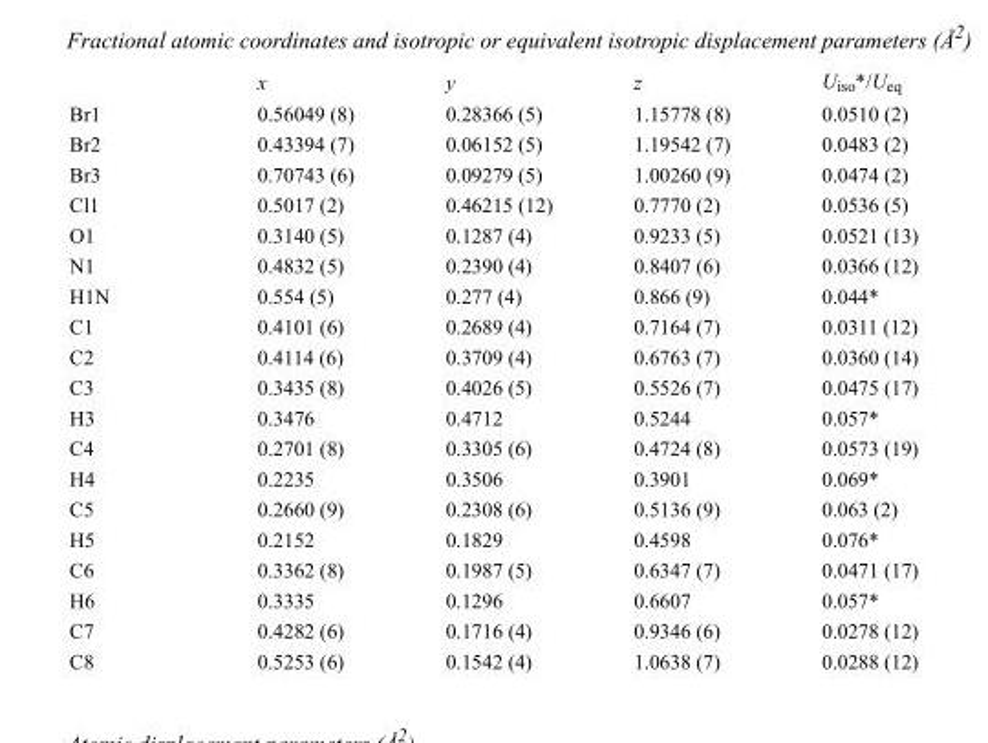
<table><thead><tr><td></td><td>x</td><td>y</td><td>z</td><td>U<sub>iso</sub>*/U<sub>eq</sub></td></tr></thead><tbody><tr><td>Br1</td><td>0.56049 (8)</td><td>0.28366 (5)</td><td>1.15778 (8)</td><td>0.0510 (2)</td></tr><tr><td>Br2</td><td>0.43394 (7)</td><td>0.06152 (5)</td><td>1.19542 (7)</td><td>0.0483 (2)</td></tr><tr><td>Br3</td><td>0.70743 (6)</td><td>0.09279 (5)</td><td>1.00260 (9)</td><td>0.0474 (2)</td></tr><tr><td>Cl1</td><td>0.5017 (2)</td><td>0.46215 (12)</td><td>0.7770 (2)</td><td>0.0536 (5)</td></tr><tr><td>O1</td><td>0.3140 (5)</td><td>0.1287 (4)</td><td>0.9233 (5)</td><td>0.0521 (13)</td></tr><tr><td>N1</td><td>0.4832 (5)</td><td>0.2390 (4)</td><td>0.8407 (6)</td><td>0.0366 (12)</td></tr><tr><td>H1N</td><td>0.554 (5)</td><td>0.277 (4)</td><td>0.866 (9)</td><td>0.044*</td></tr><tr><td>C1</td><td>0.4101 (6)</td><td>0.2689 (4)</td><td>0.7164 (7)</td><td>0.0311 (12)</td></tr><tr><td>C2</td><td>0.4114 (6)</td><td>0.3709 (4)</td><td>0.6763 (7)</td><td>0.0360 (14)</td></tr><tr><td>C3</td><td>0.3435 (8)</td><td>0.4026 (5)</td><td>0.5526 (7)</td><td>0.0475 (17)</td></tr><tr><td>H3</td><td>0.3476</td><td>0.4712</td><td>0.5244</td><td>0.057*</td></tr><tr><td>C4</td><td>0.2701 (8)</td><td>0.3305 (6)</td><td>0.4724 (8)</td><td>0.0573 (19)</td></tr><tr><td>H4</td><td>0.2235</td><td>0.3506</td><td>0.3901</td><td>0.069*</td></tr><tr><td>C5</td><td>0.2660 (9)</td><td>0.2308 (6)</td><td>0.5136 (9)</td><td>0.063 (2)</td></tr><tr><td>H5</td><td>0.2152</td><td>0.1829</td><td>0.4598</td><td>0.076*</td></tr><tr><td>C6</td><td>0.3362 (8)</td><td>0.1987 (5)</td><td>0.6347 (7)</td><td>0.0471 (17)</td></tr><tr><td>H6</td><td>0.3335</td><td>0.1296</td><td>0.6607</td><td>0.057*</td></tr><tr><td>C7</td><td>0.4282 (6)</td><td>0.1716 (4)</td><td>0.9346 (6)</td><td>0.0278 (12)</td></tr><tr><td>C8</td><td>0.5253 (6)</td><td>0.1542 (4)</td><td>1.0638 (7)</td><td>0.0288 (12)</td></tr></tbody></table>